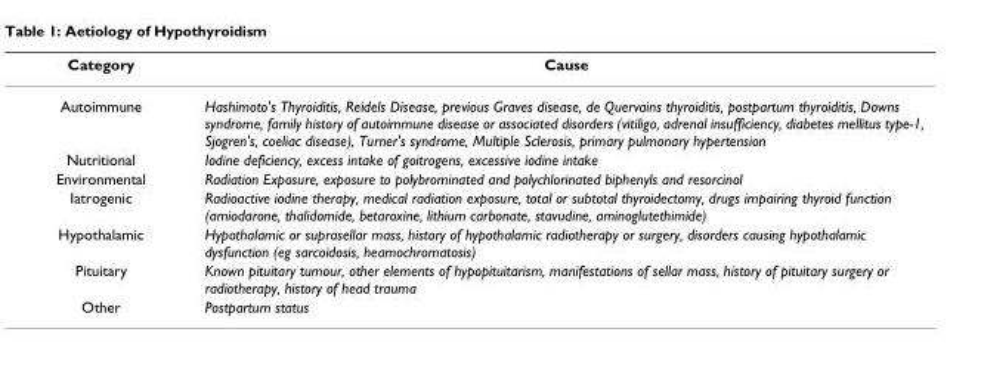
<table><thead><tr><td>Category</td><td>Cause</td></tr></thead><tbody><tr><td>Autoimmune</td><td>Hashimoto&#x27;s Thyroiditis, Reidels Disease, previous Graves disease, de Quervains thyroiditis, postpartum thyroiditis, Downs syndrome, family history of autoimmune disease or associated disorders (vitiligo, adrenal insufficiency, diabetes mellitus type-1, Sjogren&#x27;s, coeliac disease), Turner&#x27;s syndrome, Multiple Sclerosis, primary pulmonary hypertension</td></tr><tr><td>Nutritional</td><td>Iodine deficiency, excess intake of goitrogens, excessive iodine intake</td></tr><tr><td>Environmental</td><td>Radiation Exposure, exposure to polybrominated and polychlorinated biphenyls and resorcinol</td></tr><tr><td>Iatrogenic</td><td>Radioactive iodine therapy, medical radiation exposure, total or subtotal thyroidectomy, drugs impairing thyroid function (amiodarone, thalidomide, betaroxine, lithium carbonate, stavudine, aminoglutethimide)</td></tr><tr><td>Hypothalamic</td><td>Hypothalamic or suprasellar mass, history of hypothalamic radiotherapy or surgery, disorders causing hypothalamic dysfunction (eg sarcoidosis, heamochromatosis)</td></tr><tr><td>Pituitary</td><td>Known pituitary tumour, other elements of hypopituitarism, manifestations of sellar mass, history of pituitary surgery or radiotherapy, history of head trauma</td></tr><tr><td>Other</td><td>Postpartum status</td></tr></tbody></table>